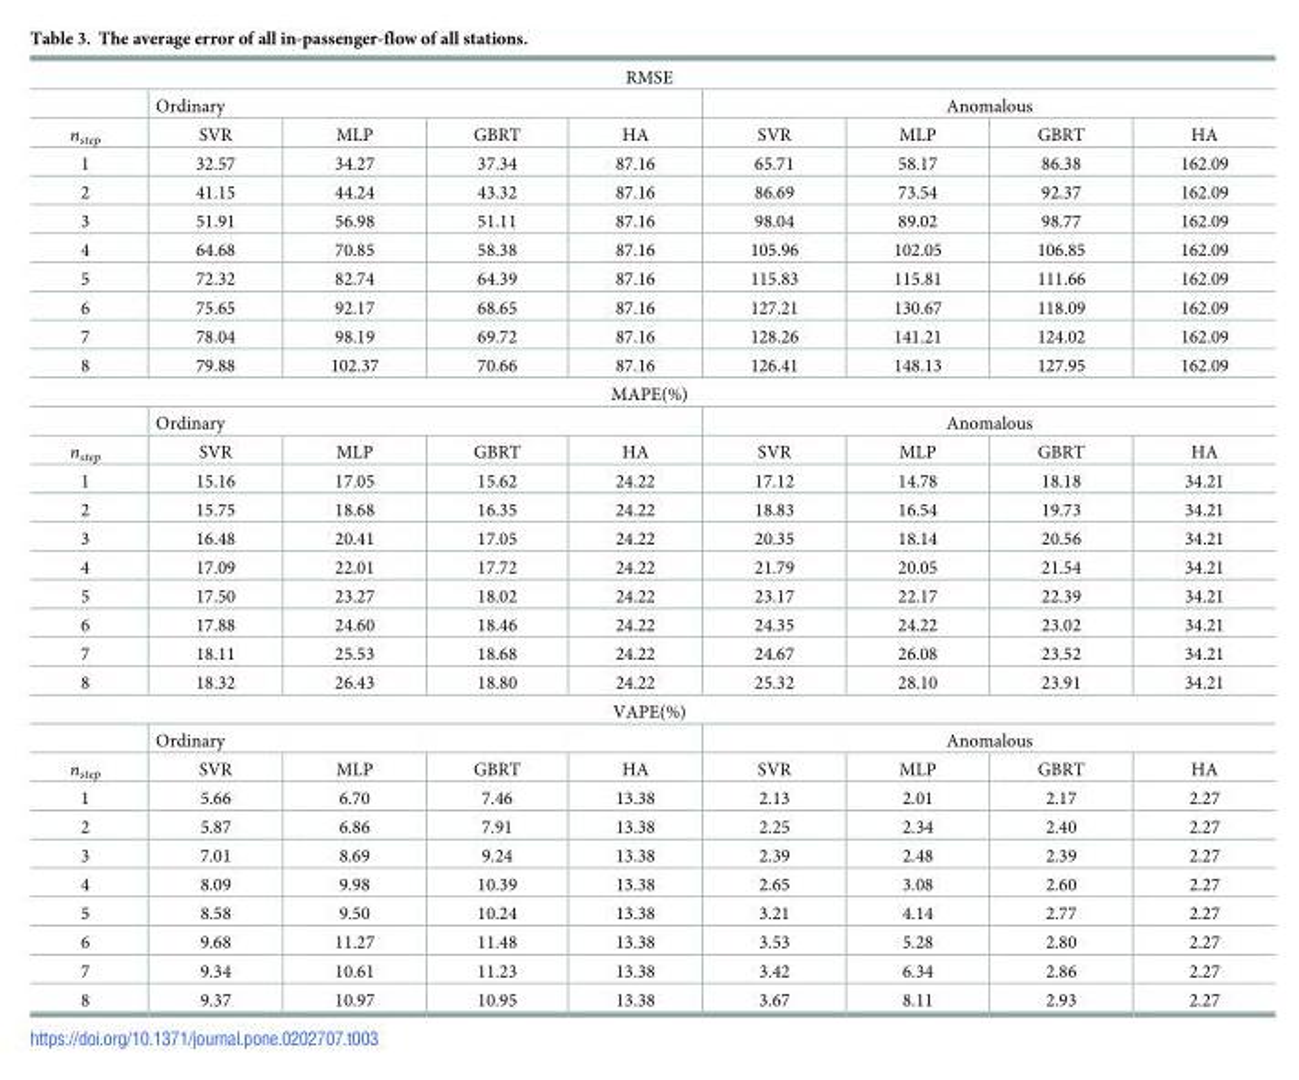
<table><tbody><tr><td colspan="9">RMSE</td></tr><tr><td></td><td colspan="4">Ordinary</td><td colspan="4">Anomalous</td></tr><tr><td>n<sub>step</sub></td><td>SVR</td><td>MLP</td><td>GBRT</td><td>HA</td><td>SVR</td><td>MLP</td><td>GBRT</td><td>HA</td></tr><tr><td>1</td><td>32.57</td><td>34.27</td><td>37.34</td><td>87.16</td><td>65.71</td><td>58.17</td><td>86.38</td><td>162.09</td></tr><tr><td>2</td><td>41.15</td><td>44.24</td><td>43.32</td><td>87.16</td><td>86.69</td><td>73.54</td><td>92.37</td><td>162.09</td></tr><tr><td>3</td><td>51.91</td><td>56.98</td><td>51.11</td><td>87.16</td><td>98.04</td><td>89.02</td><td>98.77</td><td>162.09</td></tr><tr><td>4</td><td>64.68</td><td>70.85</td><td>58.38</td><td>87.16</td><td>105.96</td><td>102.05</td><td>106.85</td><td>162.09</td></tr><tr><td>5</td><td>72.32</td><td>82.74</td><td>64.39</td><td>87.16</td><td>115.83</td><td>115.81</td><td>111.66</td><td>162.09</td></tr><tr><td>6</td><td>75.65</td><td>92.17</td><td>68.65</td><td>87.16</td><td>127.21</td><td>130.67</td><td>118.09</td><td>162.09</td></tr><tr><td>7</td><td>78.04</td><td>98.19</td><td>69.72</td><td>87.16</td><td>128.26</td><td>141.21</td><td>124.02</td><td>162.09</td></tr><tr><td>8</td><td>79.88</td><td>102.37</td><td>70.66</td><td>87.16</td><td>126.41</td><td>148.13</td><td>127.95</td><td>162.09</td></tr><tr><td colspan="9">MAPE(%)</td></tr><tr><td></td><td colspan="4">Ordinary</td><td colspan="4">Anomalous</td></tr><tr><td>n<sub>step</sub></td><td>SVR</td><td>MLP</td><td>GBRT</td><td>HA</td><td>SVR</td><td>MLP</td><td>GBRT</td><td>HA</td></tr><tr><td>1</td><td>15.16</td><td>17.05</td><td>15.62</td><td>24.22</td><td>17.12</td><td>14.78</td><td>18.18</td><td>34.21</td></tr><tr><td>2</td><td>15.75</td><td>18.68</td><td>16.35</td><td>24.22</td><td>18.83</td><td>16.54</td><td>19.73</td><td>34.21</td></tr><tr><td>3</td><td>16.48</td><td>20.41</td><td>17.05</td><td>24.22</td><td>20.35</td><td>18.14</td><td>20.56</td><td>34.21</td></tr><tr><td>4</td><td>17.09</td><td>22.01</td><td>17.72</td><td>24.22</td><td>21.79</td><td>20.05</td><td>21.54</td><td>34.21</td></tr><tr><td>5</td><td>17.50</td><td>23.27</td><td>18.02</td><td>24.22</td><td>23.17</td><td>22.17</td><td>22.39</td><td>34.21</td></tr><tr><td>6</td><td>17.88</td><td>24.60</td><td>18.46</td><td>24.22</td><td>24.35</td><td>24.22</td><td>23.02</td><td>34.21</td></tr><tr><td>7</td><td>18.11</td><td>25.53</td><td>18.68</td><td>24.22</td><td>24.67</td><td>26.08</td><td>23.52</td><td>34.21</td></tr><tr><td>8</td><td>18.32</td><td>26.43</td><td>18.80</td><td>24.22</td><td>25.32</td><td>28.10</td><td>23.91</td><td>34.21</td></tr><tr><td colspan="9">VAPE(%)</td></tr><tr><td></td><td colspan="4">Ordinary</td><td colspan="4">Anomalous</td></tr><tr><td>n<sub>step</sub></td><td>SVR</td><td>MLP</td><td>GBRT</td><td>HA</td><td>SVR</td><td>MLP</td><td>GBRT</td><td>HA</td></tr><tr><td>1</td><td>5.66</td><td>6.70</td><td>7.46</td><td>13.38</td><td>2.13</td><td>2.01</td><td>2.17</td><td>2.27</td></tr><tr><td>2</td><td>5.87</td><td>6.86</td><td>7.91</td><td>13.38</td><td>2.25</td><td>2.34</td><td>2.40</td><td>2.27</td></tr><tr><td>3</td><td>7.01</td><td>8.69</td><td>9.24</td><td>13.38</td><td>2.39</td><td>2.48</td><td>2.39</td><td>2.27</td></tr><tr><td>4</td><td>8.09</td><td>9.98</td><td>10.39</td><td>13.38</td><td>2.65</td><td>3.08</td><td>2.60</td><td>2.27</td></tr><tr><td>5</td><td>8.58</td><td>9.50</td><td>10.24</td><td>13.38</td><td>3.21</td><td>4.14</td><td>2.77</td><td>2.27</td></tr><tr><td>6</td><td>9.68</td><td>11.27</td><td>11.48</td><td>13.38</td><td>3.53</td><td>5.28</td><td>2.80</td><td>2.27</td></tr><tr><td>7</td><td>9.34</td><td>10.61</td><td>11.23</td><td>13.38</td><td>3.42</td><td>6.34</td><td>2.86</td><td>2.27</td></tr><tr><td>8</td><td>9.37</td><td>10.97</td><td>10.95</td><td>13.38</td><td>3.67</td><td>8.11</td><td>2.93</td><td>2.27</td></tr></tbody></table>